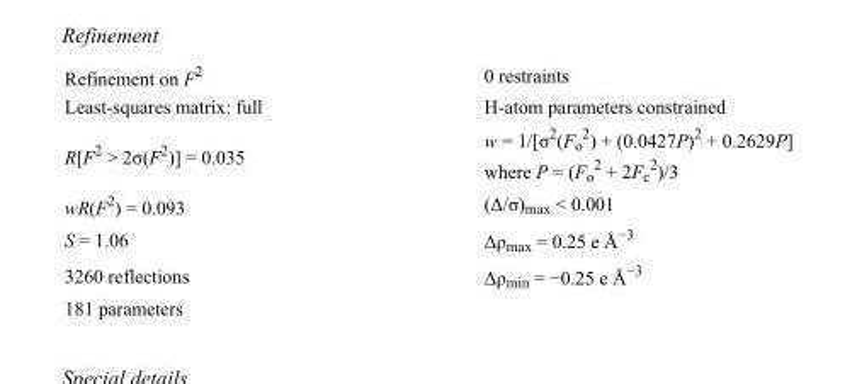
<table><tbody><tr><td>Refinement on F<sup>2</sup></td><td>0 restraints</td></tr><tr><td>Least-squares matrix: full</td><td>H-atom parameters constrained</td></tr><tr><td>R[F<sup>2</sup> &gt; 2σ(F<sup>2</sup>)] = 0.035</td><td>w = 1/[σ<sup>2</sup>(F<sub>o</sub> <sup>2</sup>) + (0.0427P)<sup>2</sup> + 0.2629P] where P = (F<sub>o</sub> <sup>2</sup> + 2F<sub>c</sub> <sup>2</sup>)/3</td></tr><tr><td>wR(F<sup>2</sup>) = 0.093</td><td>(Δ/σ)<sub>max</sub> &lt; 0.001</td></tr><tr><td>S = 1.06</td><td>Δρ<sub>max</sub> = 0.25 e Å<sup>−3</sup></td></tr><tr><td>3260 reflections</td><td>Δρ<sub>min</sub> = −0.25 e Å<sup>−3</sup></td></tr><tr><td>181 parameters</td><td></td></tr></tbody></table>